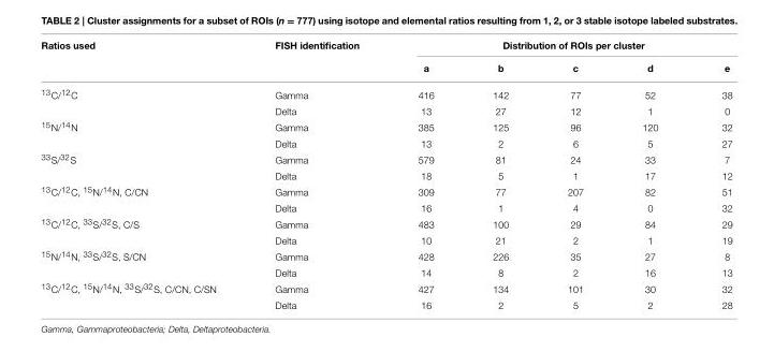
<table><thead><tr><td rowspan="2">Ratios used</td><td rowspan="2">FISH identification</td><td colspan="5">Distribution of ROIs per cluster</td></tr><tr><td>a</td><td>b</td><td>c</td><td>d</td><td>e</td></tr></thead><tbody><tr><td rowspan="2"><sup>13</sup>C/<sup>12</sup>C</td><td>Gamma</td><td>416</td><td>142</td><td>77</td><td>52</td><td>38</td></tr><tr><td>Delta</td><td>13</td><td>27</td><td>12</td><td>1</td><td>0</td></tr><tr><td rowspan="2"><sup>15</sup>N/<sup>14</sup>N</td><td>Gamma</td><td>385</td><td>125</td><td>96</td><td>120</td><td>32</td></tr><tr><td>Delta</td><td>13</td><td>2</td><td>6</td><td>5</td><td>27</td></tr><tr><td rowspan="2"><sup>33</sup>S/<sup>32</sup>S</td><td>Gamma</td><td>579</td><td>81</td><td>24</td><td>33</td><td>7</td></tr><tr><td>Delta</td><td>18</td><td>5</td><td>1</td><td>17</td><td>12</td></tr><tr><td rowspan="2"><sup>13</sup>C/<sup>12</sup>C, <sup>15</sup>N/<sup>14</sup>N, C/CN</td><td>Gamma</td><td>309</td><td>77</td><td>207</td><td>82</td><td>51</td></tr><tr><td>Delta</td><td>16</td><td>1</td><td>4</td><td>0</td><td>32</td></tr><tr><td rowspan="2"><sup>13</sup>C/<sup>12</sup>C, <sup>33</sup>S/<sup>32</sup>S, C/S</td><td>Gamma</td><td>483</td><td>100</td><td>29</td><td>84</td><td>29</td></tr><tr><td>Delta</td><td>10</td><td>21</td><td>2</td><td>1</td><td>19</td></tr><tr><td rowspan="2"><sup>15</sup>N/<sup>14</sup>N, <sup>33</sup>S/<sup>32</sup>S, S/CN</td><td>Gamma</td><td>428</td><td>226</td><td>35</td><td>27</td><td>8</td></tr><tr><td>Delta</td><td>14</td><td>8</td><td>2</td><td>16</td><td>13</td></tr><tr><td rowspan="2"><sup>13</sup>C/<sup>12</sup>C, <sup>15</sup>N/<sup>14</sup>N, <sup>33</sup>S/<sup>32</sup>S, C/CN, C/SN</td><td>Gamma</td><td>427</td><td>134</td><td>101</td><td>30</td><td>32</td></tr><tr><td>Delta</td><td>16</td><td>2</td><td>5</td><td>2</td><td>28</td></tr></tbody></table>